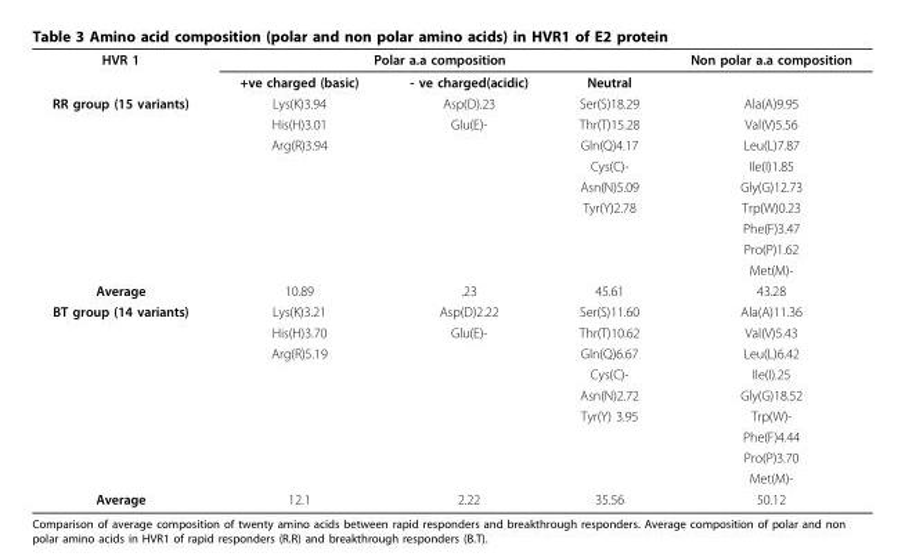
<table><tbody><tr><td rowspan="2">HVR 1</td><td colspan="3">Polar a.a composition</td><td>Non polar a.a composition</td></tr><tr><td>+ve charged (basic)</td><td>- ve charged(acidic)</td><td>Neutral</td><td></td></tr><tr><td rowspan="9">RR group (15 variants)</td><td>Lys(K)3.94</td><td>Asp(D).23</td><td>Ser(S)18.29</td><td>Ala(A)9.95</td></tr><tr><td>His(H)3.01</td><td>Glu(E)-</td><td>Thr(T)15.28</td><td>Val(V)5.56</td></tr><tr><td>Arg(R)3.94</td><td></td><td>Gln(Q)4.17</td><td>Leu(L)7.87</td></tr><tr><td></td><td></td><td>Cys(C)-</td><td>Ile(I)1.85</td></tr><tr><td></td><td></td><td>Asn(N)5.09</td><td>Gly(G)12.73</td></tr><tr><td></td><td></td><td>Tyr(Y)2.78</td><td>Trp(W)0.23</td></tr><tr><td></td><td></td><td></td><td>Phe(F)3.47</td></tr><tr><td></td><td></td><td></td><td>Pro(P)1.62</td></tr><tr><td></td><td></td><td></td><td>Met(M)-</td></tr><tr><td>Average</td><td>10.89</td><td>.23</td><td>45.61</td><td>43.28</td></tr><tr><td rowspan="9">BT group (14 variants)</td><td>Lys(K)3.21</td><td>Asp(D)2.22</td><td>Ser(S)11.60</td><td>Ala(A)11.36</td></tr><tr><td>His(H)3.70</td><td>Glu(E)-</td><td>Thr(T)10.62</td><td>Val(V)5.43</td></tr><tr><td>Arg(R)5.19</td><td></td><td>Gln(Q)6.67</td><td>Leu(L)6.42</td></tr><tr><td></td><td></td><td>Cys(C)-</td><td>Ile(I).25</td></tr><tr><td></td><td></td><td>Asn(N)2.72</td><td>Gly(G)18.52</td></tr><tr><td></td><td></td><td>Tyr(Y) 3.95</td><td>Trp(W)-</td></tr><tr><td></td><td></td><td></td><td>Phe(F)4.44</td></tr><tr><td></td><td></td><td></td><td>Pro(P)3.70</td></tr><tr><td></td><td></td><td></td><td>Met(M)-</td></tr><tr><td>Average</td><td>12.1</td><td>2.22</td><td>35.56</td><td>50.12</td></tr></tbody></table>